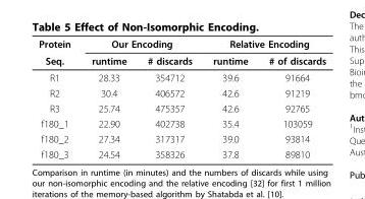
<table><thead><tr><td rowspan="2">Protein Seq.</td><td colspan="2">Our Encoding</td><td colspan="2">Relative Encoding</td></tr><tr><td>runtime</td><td># discards</td><td>runtime</td><td># of discards</td></tr></thead><tbody><tr><td>R1</td><td>28.33</td><td>354712</td><td>39.6</td><td>91664</td></tr><tr><td>R2</td><td>30.4</td><td>406572</td><td>42.6</td><td>91219</td></tr><tr><td>R3</td><td>25.74</td><td>475357</td><td>42.6</td><td>92765</td></tr><tr><td>f180_1</td><td>22.90</td><td>402738</td><td>35.4</td><td>103059</td></tr><tr><td>f180_2</td><td>27.34</td><td>317317</td><td>39.0</td><td>93814</td></tr><tr><td>f180_3</td><td>24.54</td><td>358326</td><td>37.8</td><td>89810</td></tr></tbody></table>